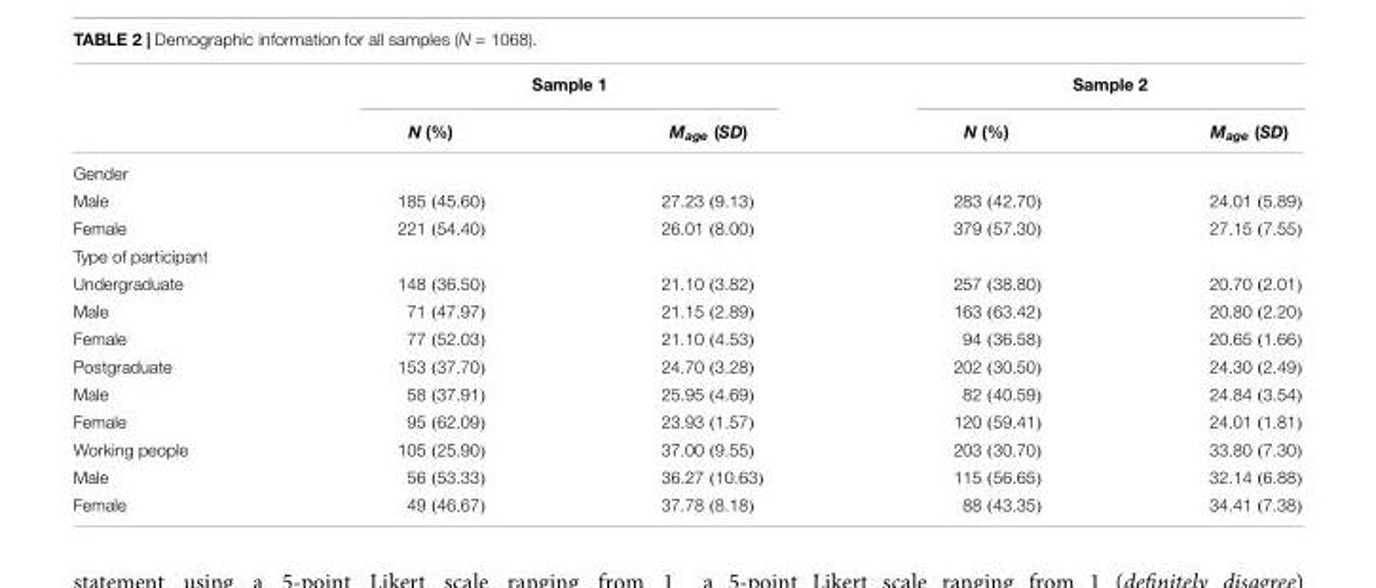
<table><thead><tr><td rowspan="2"></td><td colspan="2">Sample 1</td><td colspan="2">Sample 2</td></tr><tr><td>N (%)</td><td>M<sub>age</sub> (SD)</td><td>N (%)</td><td>M<sub>age</sub> (SD)</td></tr></thead><tbody><tr><td colspan="5">Gender</td></tr><tr><td>Male</td><td>185 (45.60)</td><td>27.23 (9.13)</td><td>283 (42.70)</td><td>24.01 (5.89)</td></tr><tr><td>Female</td><td>221 (54.40)</td><td>26.01 (8.00)</td><td>379 (57.30)</td><td>27.15 (7.55)</td></tr><tr><td colspan="5">Type of participant</td></tr><tr><td>Undergraduate</td><td>148 (36.50)</td><td>21.10 (3.82)</td><td>257 (38.80)</td><td>20.70 (2.01)</td></tr><tr><td>Male</td><td>71 (47.97)</td><td>21.15 (2.89)</td><td>163 (63.42)</td><td>20.80 (2.20)</td></tr><tr><td>Female</td><td>77 (52.03)</td><td>21.10 (4.53)</td><td>94 (36.58)</td><td>20.65 (1.66)</td></tr><tr><td>Postgraduate</td><td>153 (37.70)</td><td>24.70 (3.28)</td><td>202 (30.50)</td><td>24.30 (2.49)</td></tr><tr><td>Male</td><td>58 (37.91)</td><td>25.95 (4.69)</td><td>82 (40.59)</td><td>24.84 (3.54)</td></tr><tr><td>Female</td><td>95 (62.09)</td><td>23.93 (1.57)</td><td>120 (59.41)</td><td>24.01 (1.81)</td></tr><tr><td>Working people</td><td>105 (25.90)</td><td>37.00 (9.55)</td><td>203 (30.70)</td><td>33.80 (7.30)</td></tr><tr><td>Male</td><td>56 (53.33)</td><td>36.27 (10.63)</td><td>115 (56.65)</td><td>32.14 (6.88)</td></tr><tr><td>Female</td><td>49 (46.67)</td><td>37.78 (8.18)</td><td>88 (43.35)</td><td>34.41 (7.38)</td></tr></tbody></table>